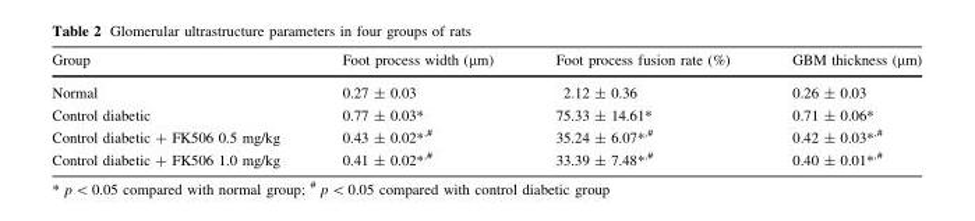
<table><thead><tr><td>Group</td><td>Foot process width (μm)</td><td>Foot process fusion rate (%)</td><td>GBM thickness (μm)</td></tr></thead><tbody><tr><td>Normal</td><td>0.27 ± 0.03</td><td>2.12 ± 0.36</td><td>0.26 ± 0.03</td></tr><tr><td>Control diabetic</td><td>0.77 ± 0.03*</td><td>75.33 ± 14.61*</td><td>0.71 ± 0.06*</td></tr><tr><td>Control diabetic + FK506 0.5 mg/kg</td><td>0.43 ± 0.02*<sup>,#</sup></td><td>35.24 ± 6.07*<sup>,#</sup></td><td>0.42 ± 0.03*<sup>,#</sup></td></tr><tr><td>Control diabetic + FK506 1.0 mg/kg</td><td>0.41 ± 0.02*<sup>,#</sup></td><td>33.39 ± 7.48*<sup>,#</sup></td><td>0.40 ± 0.01*<sup>,#</sup></td></tr></tbody></table>